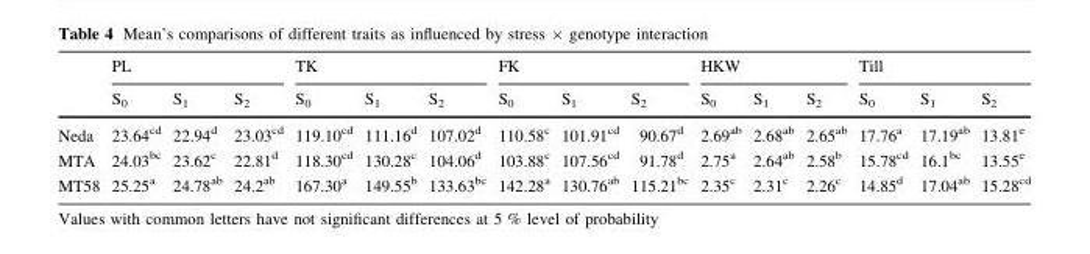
<table><thead><tr><td rowspan="2"></td><td colspan="3">PL</td><td colspan="3">TK</td><td colspan="3">FK</td><td colspan="3">HKW</td><td colspan="3">Till</td></tr><tr><td>S<sub>0</sub></td><td>S<sub>1</sub></td><td>S<sub>2</sub></td><td>S<sub>0</sub></td><td>S<sub>1</sub></td><td>S<sub>2</sub></td><td>S<sub>0</sub></td><td>S<sub>1</sub></td><td>S<sub>2</sub></td><td>S<sub>0</sub></td><td>S<sub>1</sub></td><td>S<sub>2</sub></td><td>S<sub>0</sub></td><td>S<sub>1</sub></td><td>S<sub>2</sub></td></tr></thead><tbody><tr><td>Neda</td><td>23.64<sup>cd</sup></td><td>22.94<sup>d</sup></td><td>23.03<sup>cd</sup></td><td>119.10<sup>cd</sup></td><td>111.16<sup>d</sup></td><td>107.02<sup>d</sup></td><td>110.58<sup>c</sup></td><td>101.91<sup>cd</sup></td><td>90.67<sup>d</sup></td><td>2.69<sup>ab</sup></td><td>2.68<sup>ab</sup></td><td>2.65<sup>ab</sup></td><td>17.76<sup>a</sup></td><td>17.19<sup>ab</sup></td><td>13.81<sup>e</sup></td></tr><tr><td>MTA</td><td>24.03<sup>bc</sup></td><td>23.62<sup>c</sup></td><td>22.81<sup>d</sup></td><td>118.30<sup>cd</sup></td><td>130.28<sup>c</sup></td><td>104.06<sup>d</sup></td><td>103.88<sup>c</sup></td><td>107.56<sup>cd</sup></td><td>91.78<sup>d</sup></td><td>2.75<sup>a</sup></td><td>2.64<sup>ab</sup></td><td>2.58<sup>b</sup></td><td>15.78<sup>cd</sup></td><td>16.1<sup>bc</sup></td><td>13.55<sup>e</sup></td></tr><tr><td>MT58</td><td>25.25<sup>a</sup></td><td>24.78<sup>ab</sup></td><td>24.2<sup>ab</sup></td><td>167.30<sup>a</sup></td><td>149.55<sup>b</sup></td><td>133.63<sup>bc</sup></td><td>142.28<sup>a</sup></td><td>130.76<sup>ab</sup></td><td>115.21<sup>bc</sup></td><td>2.35<sup>c</sup></td><td>2.31<sup>c</sup></td><td>2.26<sup>c</sup></td><td>14.85<sup>d</sup></td><td>17.04<sup>ab</sup></td><td>15.28<sup>cd</sup></td></tr></tbody></table>